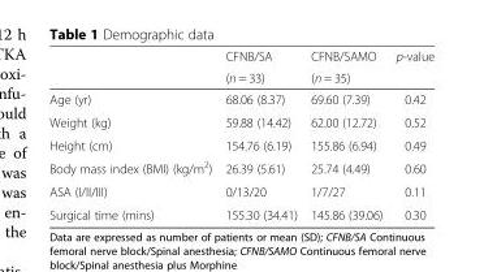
<table><thead><tr><td rowspan="2"></td><td rowspan="2">CFNB/SA (n = 33)</td><td rowspan="2">CFNB/SAMO (n = 35)</td><td rowspan="2">p-value</td></tr><tr></tr></thead><tbody><tr><td>Age (yr)</td><td>68.06 (8.37)</td><td>69.60 (7.39)</td><td>0.42</td></tr><tr><td>Weight (kg)</td><td>59.88 (14.42)</td><td>62.00 (12.72)</td><td>0.52</td></tr><tr><td>Height (cm)</td><td>154.76 (6.19)</td><td>155.86 (6.94)</td><td>0.49</td></tr><tr><td>Body mass index (BMI) (kg/m<sup>2</sup>)</td><td>26.39 (5.61)</td><td>25.74 (4.49)</td><td>0.60</td></tr><tr><td>ASA (I/II/III)</td><td>0/13/20</td><td>1/7/27</td><td>0.11</td></tr><tr><td>Surgical time (mins)</td><td>155.30 (34.41)</td><td>145.86 (39.06)</td><td>0.30</td></tr></tbody></table>